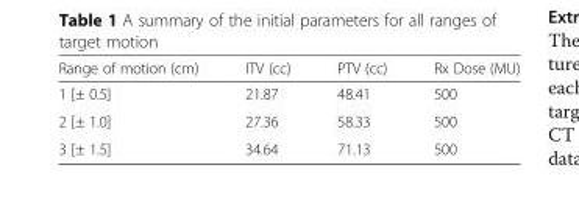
<table><thead><tr><td>Range of motion (cm)</td><td>ITV (cc)</td><td>PTV (cc)</td><td>Rx Dose (MU)</td></tr></thead><tbody><tr><td>1 [± 0.5]</td><td>21.87</td><td>48.41</td><td>500</td></tr><tr><td>2 [± 1.0]</td><td>27.36</td><td>58.33</td><td>500</td></tr><tr><td>3 [± 1.5]</td><td>34.64</td><td>71.13</td><td>500</td></tr></tbody></table>